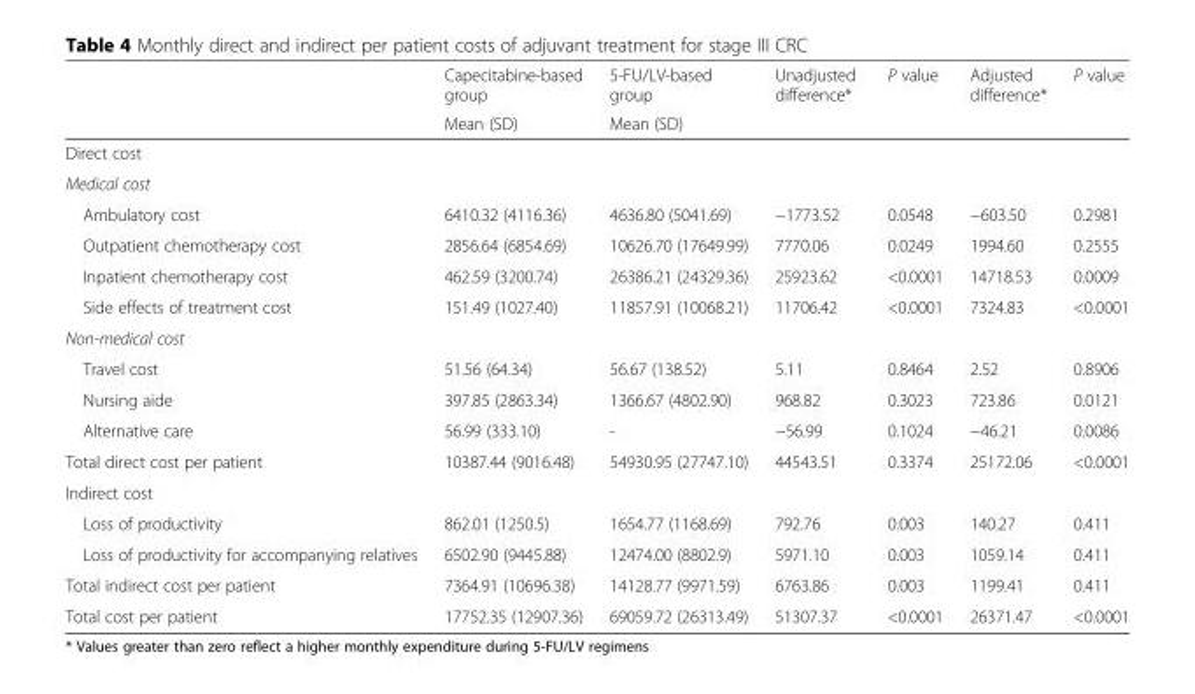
<table><thead><tr><td rowspan="2"></td><td rowspan="2">Capecitabine-based group Mean (SD)</td><td rowspan="2">5-FU/LV-based group Mean (SD)</td><td rowspan="2">Unadjusted difference*</td><td rowspan="2">P value</td><td rowspan="2">Adjusted difference*</td><td rowspan="2">P value</td></tr><tr></tr></thead><tbody><tr><td colspan="7">Direct cost</td></tr><tr><td colspan="7">Medical cost</td></tr><tr><td>Ambulatory cost</td><td>6410.32 (4116.36)</td><td>4636.80 (5041.69)</td><td>−1773.52</td><td>0.0548</td><td>−603.50</td><td>0.2981</td></tr><tr><td>Outpatient chemotherapy cost</td><td>2856.64 (6854.69)</td><td>10626.70 (17649.99)</td><td>7770.06</td><td>0.0249</td><td>1994.60</td><td>0.2555</td></tr><tr><td>Inpatient chemotherapy cost</td><td>462.59 (3200.74)</td><td>26386.21 (24329.36)</td><td>25923.62</td><td>&lt;0.0001</td><td>14718.53</td><td>0.0009</td></tr><tr><td>Side effects of treatment cost</td><td>151.49 (1027.40)</td><td>11857.91 (10068.21)</td><td>11706.42</td><td>&lt;0.0001</td><td>7324.83</td><td>&lt;0.0001</td></tr><tr><td colspan="7">Non-medical cost</td></tr><tr><td>Travel cost</td><td>51.56 (64.34)</td><td>56.67 (138.52)</td><td>5.11</td><td>0.8464</td><td>2.52</td><td>0.8906</td></tr><tr><td>Nursing aide</td><td>397.85 (2863.34)</td><td>1366.67 (4802.90)</td><td>968.82</td><td>0.3023</td><td>723.86</td><td>0.0121</td></tr><tr><td>Alternative care</td><td>56.99 (333.10)</td><td>-</td><td>−56.99</td><td>0.1024</td><td>−46.21</td><td>0.0086</td></tr><tr><td>Total direct cost per patient</td><td>10387.44 (9016.48)</td><td>54930.95 (27747.10)</td><td>44543.51</td><td>0.3374</td><td>25172.06</td><td>&lt;0.0001</td></tr><tr><td colspan="7">Indirect cost</td></tr><tr><td>Loss of productivity</td><td>862.01 (1250.5)</td><td>1654.77 (1168.69)</td><td>792.76</td><td>0.003</td><td>140.27</td><td>0.411</td></tr><tr><td>Loss of productivity for accompanying relatives</td><td>6502.90 (9445.88)</td><td>12474.00 (8802.9)</td><td>5971.10</td><td>0.003</td><td>1059.14</td><td>0.411</td></tr><tr><td>Total indirect cost per patient</td><td>7364.91 (10696.38)</td><td>14128.77 (9971.59)</td><td>6763.86</td><td>0.003</td><td>1199.41</td><td>0.411</td></tr><tr><td>Total cost per patient</td><td>17752.35 (12907.36)</td><td>69059.72 (26313.49)</td><td>51307.37</td><td>&lt;0.0001</td><td>26371.47</td><td>&lt;0.0001</td></tr></tbody></table>